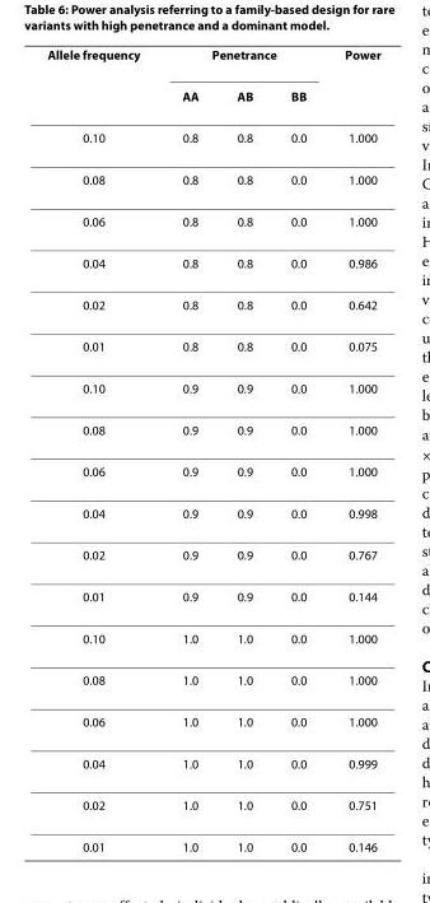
<table><thead><tr><td rowspan="2">Allele frequency</td><td colspan="3">Penetrance</td><td rowspan="2">Power</td></tr><tr><td>AA</td><td>AB</td><td>BB</td></tr></thead><tbody><tr><td>0.10</td><td>0.8</td><td>0.8</td><td>0.0</td><td>1.000</td></tr><tr><td>0.08</td><td>0.8</td><td>0.8</td><td>0.0</td><td>1.000</td></tr><tr><td>0.06</td><td>0.8</td><td>0.8</td><td>0.0</td><td>1.000</td></tr><tr><td>0.04</td><td>0.8</td><td>0.8</td><td>0.0</td><td>0.986</td></tr><tr><td>0.02</td><td>0.8</td><td>0.8</td><td>0.0</td><td>0.642</td></tr><tr><td>0.01</td><td>0.8</td><td>0.8</td><td>0.0</td><td>0.075</td></tr><tr><td>0.10</td><td>0.9</td><td>0.9</td><td>0.0</td><td>1.000</td></tr><tr><td>0.08</td><td>0.9</td><td>0.9</td><td>0.0</td><td>1.000</td></tr><tr><td>0.06</td><td>0.9</td><td>0.9</td><td>0.0</td><td>1.000</td></tr><tr><td>0.04</td><td>0.9</td><td>0.9</td><td>0.0</td><td>0.998</td></tr><tr><td>0.02</td><td>0.9</td><td>0.9</td><td>0.0</td><td>0.767</td></tr><tr><td>0.01</td><td>0.9</td><td>0.9</td><td>0.0</td><td>0.144</td></tr><tr><td>0.10</td><td>1.0</td><td>1.0</td><td>0.0</td><td>1.000</td></tr><tr><td>0.08</td><td>1.0</td><td>1.0</td><td>0.0</td><td>1.000</td></tr><tr><td>0.06</td><td>1.0</td><td>1.0</td><td>0.0</td><td>1.000</td></tr><tr><td>0.04</td><td>1.0</td><td>1.0</td><td>0.0</td><td>0.999</td></tr><tr><td>0.02</td><td>1.0</td><td>1.0</td><td>0.0</td><td>0.751</td></tr><tr><td>0.01</td><td>1.0</td><td>1.0</td><td>0.0</td><td>0.146</td></tr></tbody></table>